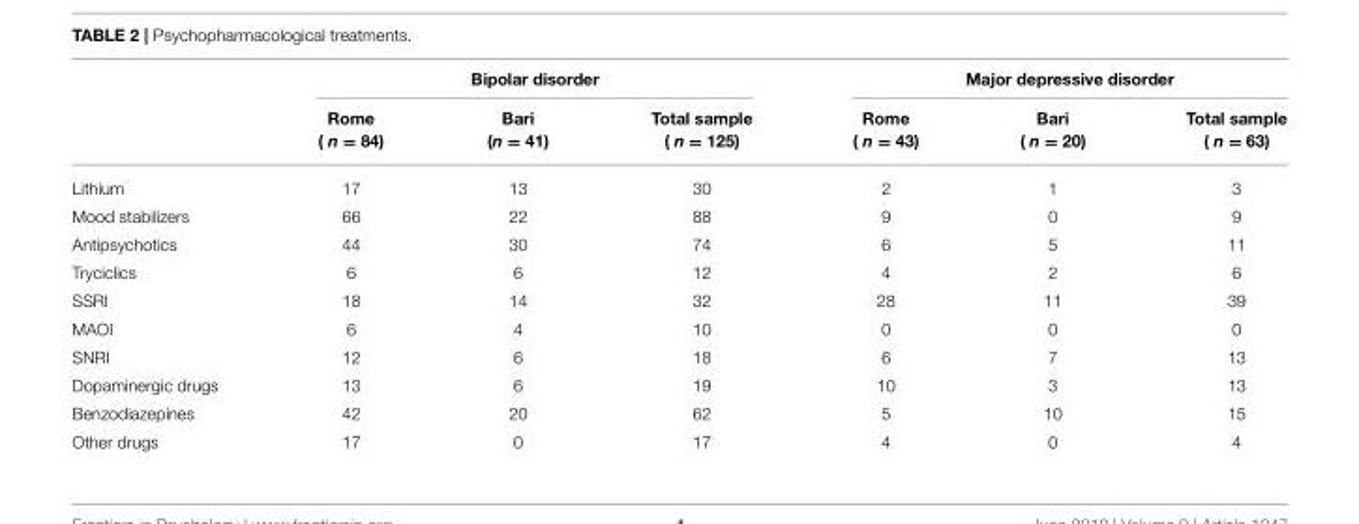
<table><thead><tr><td rowspan="2"></td><td colspan="3">Bipolar disorder</td><td colspan="3">Major depressive disorder</td></tr><tr><td>Rome ( n = 84)</td><td>Bari (n = 41)</td><td>Total sample ( n = 125)</td><td>Rome ( n = 43)</td><td>Bari ( n = 20)</td><td>Total sample ( n = 63)</td></tr></thead><tbody><tr><td>Lithium</td><td>17</td><td>13</td><td>30</td><td>2</td><td>1</td><td>3</td></tr><tr><td>Mood stabilizers</td><td>66</td><td>22</td><td>88</td><td>9</td><td>0</td><td>9</td></tr><tr><td>Antipsychotics</td><td>44</td><td>30</td><td>74</td><td>6</td><td>5</td><td>11</td></tr><tr><td>Tryciclics</td><td>6</td><td>6</td><td>12</td><td>4</td><td>2</td><td>6</td></tr><tr><td>SSRI</td><td>18</td><td>14</td><td>32</td><td>28</td><td>11</td><td>39</td></tr><tr><td>MAOI</td><td>6</td><td>4</td><td>10</td><td>0</td><td>0</td><td>0</td></tr><tr><td>SNRI</td><td>12</td><td>6</td><td>18</td><td>6</td><td>7</td><td>13</td></tr><tr><td>Dopaminergic drugs</td><td>13</td><td>6</td><td>19</td><td>10</td><td>3</td><td>13</td></tr><tr><td>Benzodiazepines</td><td>42</td><td>20</td><td>62</td><td>5</td><td>10</td><td>15</td></tr><tr><td>Other drugs</td><td>17</td><td>0</td><td>17</td><td>4</td><td>0</td><td>4</td></tr></tbody></table>